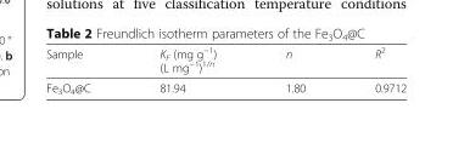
<table><thead><tr><td>Sample</td><td>K<sub>F</sub> (mg g<sup>−1</sup>) (L mg<sup>−1</sup>)<sup>1/n</sup></td><td>n</td><td>R<sup>2</sup></td></tr></thead><tbody><tr><td>Fe<sub>3</sub>O<sub>4</sub>@C</td><td>81.94</td><td>1.80</td><td>0.9712</td></tr></tbody></table>